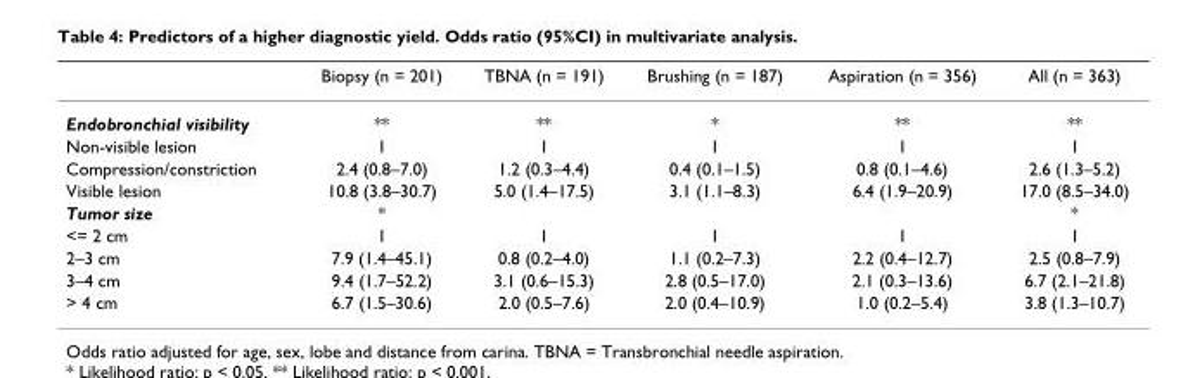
<table><thead><tr><td></td><td>Biopsy (n = 201)</td><td>TBNA (n = 191)</td><td>Brushing (n = 187)</td><td>Aspiration (n = 356)</td><td>All (n = 363)</td></tr></thead><tbody><tr><td>Endobronchial visibility</td><td>**</td><td>**</td><td>*</td><td>**</td><td>**</td></tr><tr><td>Non-visible lesion</td><td>1</td><td>1</td><td>1</td><td>1</td><td>1</td></tr><tr><td>Compression/constriction</td><td>2.4 (0.8–7.0)</td><td>1.2 (0.3–4.4)</td><td>0.4 (0.1–1.5)</td><td>0.8 (0.1–4.6)</td><td>2.6 (1.3–5.2)</td></tr><tr><td>Visible lesion</td><td>10.8 (3.8–30.7)</td><td>5.0 (1.4–17.5)</td><td>3.1 (1.1–8.3)</td><td>6.4 (1.9–20.9)</td><td>17.0 (8.5–34.0)</td></tr><tr><td>Tumor size</td><td>*</td><td></td><td></td><td></td><td>*</td></tr><tr><td>&lt;= 2 cm</td><td>1</td><td>1</td><td>1</td><td>1</td><td>1</td></tr><tr><td>2–3 cm</td><td>7.9 (1.4–45.1)</td><td>0.8 (0.2–4.0)</td><td>1.1 (0.2–7.3)</td><td>2.2 (0.4–12.7)</td><td>2.5 (0.8–7.9)</td></tr><tr><td>3–4 cm</td><td>9.4 (1.7–52.2)</td><td>3.1 (0.6–15.3)</td><td>2.8 (0.5–17.0)</td><td>2.1 (0.3–13.6)</td><td>6.7 (2.1–21.8)</td></tr><tr><td>&gt; 4 cm</td><td>6.7 (1.5–30.6)</td><td>2.0 (0.5–7.6)</td><td>2.0 (0.4–10.9)</td><td>1.0 (0.2–5.4)</td><td>3.8 (1.3–10.7)</td></tr></tbody></table>